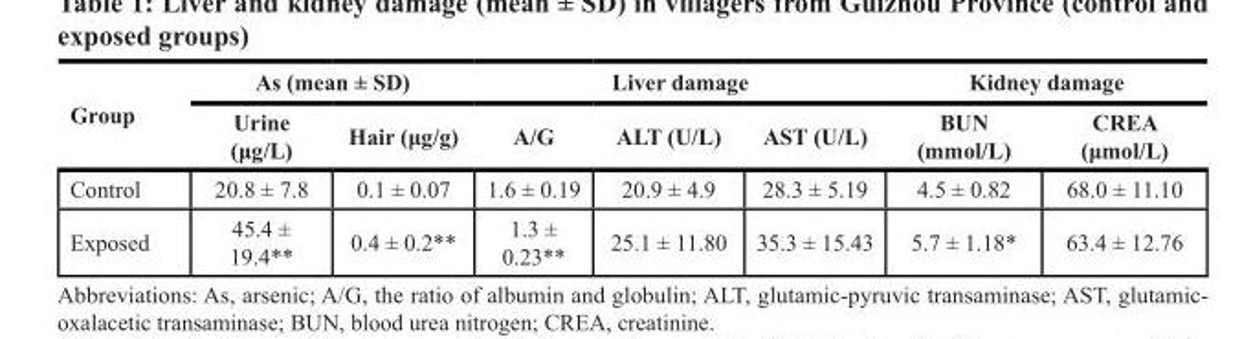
<table><thead><tr><td rowspan="2">Group</td><td colspan="2">As (mean ± SD)</td><td colspan="3">Liver damage</td><td colspan="2">Kidney damage</td></tr><tr><td>Urine (μg/L)</td><td>Hair (μg/g)</td><td>A/G</td><td>ALT (U/L)</td><td>AST (U/L)</td><td>BUN (mmol/L)</td><td>CREA (μmol/L)</td></tr></thead><tbody><tr><td>Control</td><td>20.8 ± 7.8</td><td>0.1 ± 0.07</td><td>1.6 ± 0.19</td><td>20.9 ± 4.9</td><td>28.3 ± 5.19</td><td>4.5 ± 0.82</td><td>68.0 ± 11.10</td></tr><tr><td>Exposed</td><td>45.4 ± 19.4**</td><td>0.4 ± 0.2**</td><td>1.3 ± 0.23**</td><td>25.1 ± 11.80</td><td>35.3 ± 15.43</td><td>5.7 ± 1.18*</td><td>63.4 ± 12.76</td></tr></tbody></table>